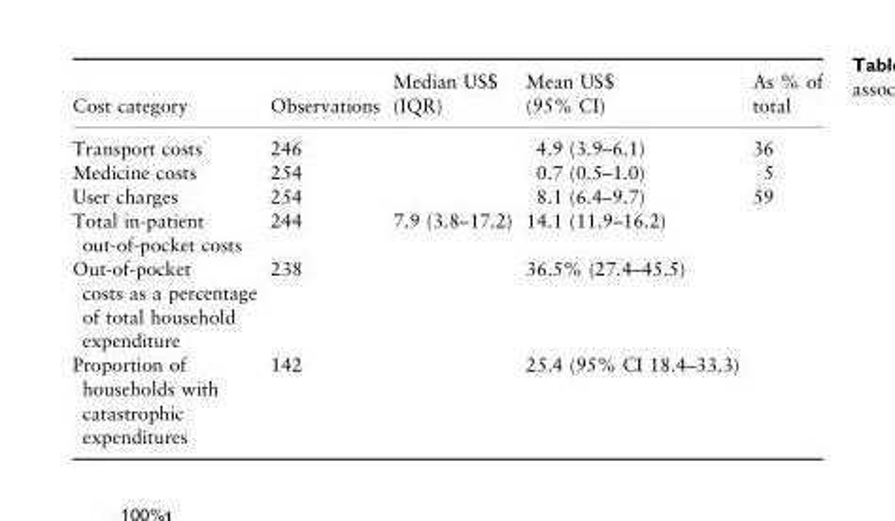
<table><thead><tr><td>Cost category</td><td>Observations</td><td>Median US$ (IQR)</td><td>Mean US$ (95% CI)</td><td>As % of total</td></tr></thead><tbody><tr><td>Transport costs</td><td>246</td><td></td><td>4.9 (3.9–6.1)</td><td>36</td></tr><tr><td>Medicine costs</td><td>254</td><td></td><td>0.7 (0.5–1.0)</td><td>5</td></tr><tr><td>User charges</td><td>254</td><td></td><td>8.1 (6.4–9.7)</td><td>59</td></tr><tr><td>Total in-patient out-of-pocket costs</td><td>244</td><td>7.9 (3.8–17.2)</td><td>14.1 (11.9–16.2)</td><td></td></tr><tr><td>Out-of-pocket costs as a percentage of total household expenditure</td><td>238</td><td></td><td>36.5% (27.4–45.5)</td><td></td></tr><tr><td>Proportion of households with catastrophic expenditures</td><td>142</td><td></td><td>25.4 (95% CI 18.4–33.3)</td><td></td></tr></tbody></table>